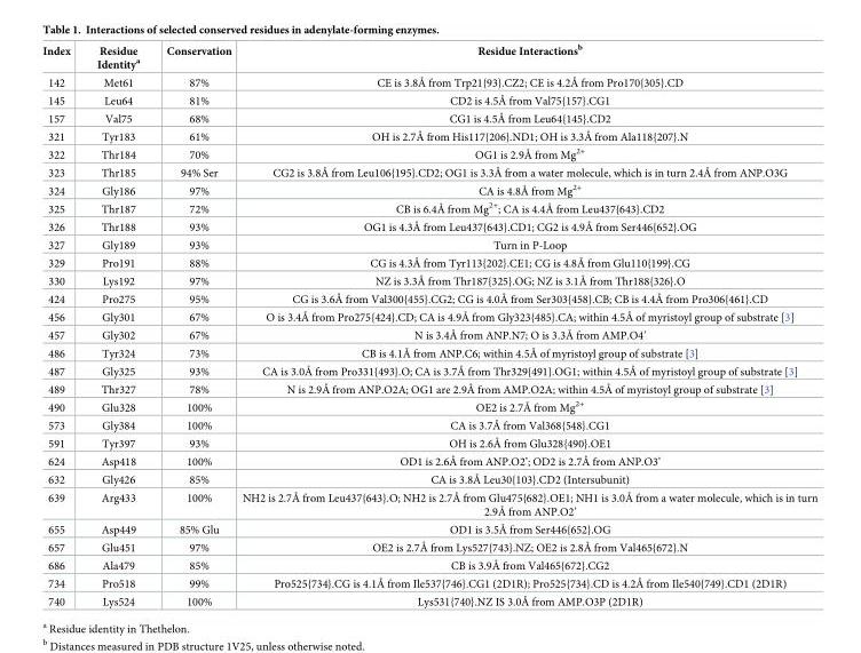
<table><thead><tr><td>Index</td><td>Residue Identity<sup>a</sup></td><td>Conservation</td><td>Residue Interactions<sup>b</sup></td></tr></thead><tbody><tr><td>142</td><td>Met61</td><td>87%</td><td>CE is 3.8Å from Trp21{93}.CZ2; CE is 4.2Å from Pro170{305}.CD</td></tr><tr><td>145</td><td>Leu64</td><td>81%</td><td>CD2 is 4.5Å from Val75{157}.CG1</td></tr><tr><td>157</td><td>Val75</td><td>68%</td><td>CG1 is 4.5Å from Leu64{145}.CD2</td></tr><tr><td>321</td><td>Tyr183</td><td>61%</td><td>OH is 2.7Å from His117{206}.ND1; OH is 3.3Å from Ala118{207}.N</td></tr><tr><td>322</td><td>Thr184</td><td>70%</td><td>OG1 is 2.9Å from Mg<sup>2+</sup></td></tr><tr><td>323</td><td>Thr185</td><td>94% Ser</td><td>CG2 is 3.8Å from Leu106{195}.CD2; OG1 is 3.3Å from a water molecule, which is in turn 2.4Å from ANP.O3G</td></tr><tr><td>324</td><td>Gly186</td><td>97%</td><td>CA is 4.8Å from Mg<sup>2+</sup></td></tr><tr><td>325</td><td>Thr187</td><td>72%</td><td>CB is 6.4Å from Mg<sup>2+</sup>; CA is 4.4Å from Leu437{643}.CD2</td></tr><tr><td>326</td><td>Thr188</td><td>93%</td><td>OG1 is 4.3Å from Leu437{643}.CD1; CG2 is 4.9Å from Ser446{652}.OG</td></tr><tr><td>327</td><td>Gly189</td><td>93%</td><td>Turn in P-Loop</td></tr><tr><td>329</td><td>Pro191</td><td>88%</td><td>CG is 4.3Å from Tyr113{202}.CE1; CG is 4.8Å from Glu110{199}.CG</td></tr><tr><td>330</td><td>Lys192</td><td>97%</td><td>NZ is 3.3Å from Thr187{325}.OG; NZ is 3.1Å from Thr188{326}.O</td></tr><tr><td>424</td><td>Pro275</td><td>95%</td><td>CG is 3.6Å from Val300{455}.CG2; CG is 4.0Å from Ser303{458}.CB; CB is 4.4Å from Pro306{461}.CD</td></tr><tr><td>456</td><td>Gly301</td><td>67%</td><td>O is 3.4Å from Pro275{424}.CD; CA is 4.9Å from Gly323{485}.CA; within 4.5Å of myristoyl group of substrate [3]</td></tr><tr><td>457</td><td>Gly302</td><td>67%</td><td>N is 3.4Å from ANP.N7; O is 3.3Å from AMP.O4’</td></tr><tr><td>486</td><td>Tyr324</td><td>73%</td><td>CB is 4.1Å from ANP.C6; within 4.5Å of myristoyl group of substrate [3]</td></tr><tr><td>487</td><td>Gly325</td><td>93%</td><td>CA is 3.0Å from Pro331{493}.O; CA is 3.7Å from Thr329{491}.OG1; within 4.5Å of myristoyl group of substrate [3]</td></tr><tr><td>489</td><td>Thr327</td><td>78%</td><td>N is 2.9Å from ANP.O2A; OG1 are 2.9Å from AMP.O2A; within 4.5Å of myristoyl group of substrate [3]</td></tr><tr><td>490</td><td>Glu328</td><td>100%</td><td>OE2 is 2.7Å from Mg<sup>2+</sup></td></tr><tr><td>573</td><td>Gly384</td><td>100%</td><td>CA is 3.7Å from Val368{548}.CG1</td></tr><tr><td>591</td><td>Tyr397</td><td>93%</td><td>OH is 2.6Å from Glu328{490}.OE1</td></tr><tr><td>624</td><td>Asp418</td><td>100%</td><td>OD1 is 2.6Å from ANP.O2’; OD2 is 2.7Å from ANP.O3’</td></tr><tr><td>632</td><td>Gly426</td><td>85%</td><td>CA is 3.8Å Leu30{103}.CD2 (Intersubunit)</td></tr><tr><td>639</td><td>Arg433</td><td>100%</td><td>NH2 is 2.7Å from Leu437{643}.O; NH2 is 2.7Å from Glu475{682}.OE1; NH1 is 3.0Å from a water molecule, which is in turn 2.9Å from ANP.O2’</td></tr><tr><td>655</td><td>Asp449</td><td>85% Glu</td><td>OD1 is 3.5Å from Ser446{652}.OG</td></tr><tr><td>657</td><td>Glu451</td><td>97%</td><td>OE2 is 2.7Å from Lys527{743}.NZ; OE2 is 2.8Å from Val465{672}.N</td></tr><tr><td>686</td><td>Ala479</td><td>85%</td><td>CB is 3.9Å from Val465{672}.CG2</td></tr><tr><td>734</td><td>Pro518</td><td>99%</td><td>Pro525{734}.CG is 4.1Å from Ile537{746}.CG1 (2D1R); Pro525{734}.CD is 4.2Å from Ile540{749}.CD1 (2D1R)</td></tr><tr><td>740</td><td>Lys524</td><td>100%</td><td>Lys531{740}.NZ IS 3.0Å from AMP.O3P (2D1R)</td></tr></tbody></table>